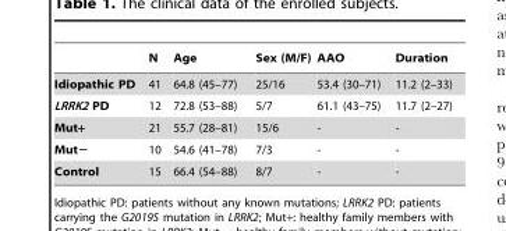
<table><thead><tr><td></td><td>N</td><td>Age</td><td>Sex (M/F)</td><td>AAO</td><td>Duration</td></tr></thead><tbody><tr><td>Idiopathic PD</td><td>41</td><td>64.8 (45–77)</td><td>25/16</td><td>53.4 (30–71)</td><td>11.2 (2–33)</td></tr><tr><td>LRRK2 PD</td><td>12</td><td>72.8 (53–88)</td><td>5/7</td><td>61.1 (43–75)</td><td>11.7 (2–27)</td></tr><tr><td>Mut+</td><td>21</td><td>55.7 (28–81)</td><td>15/6</td><td>-</td><td>-</td></tr><tr><td>Mut−</td><td>10</td><td>54.6 (41–78)</td><td>7/3</td><td>-</td><td>-</td></tr><tr><td>Control</td><td>15</td><td>66.4 (54–88)</td><td>8/7</td><td>-</td><td>-</td></tr></tbody></table>